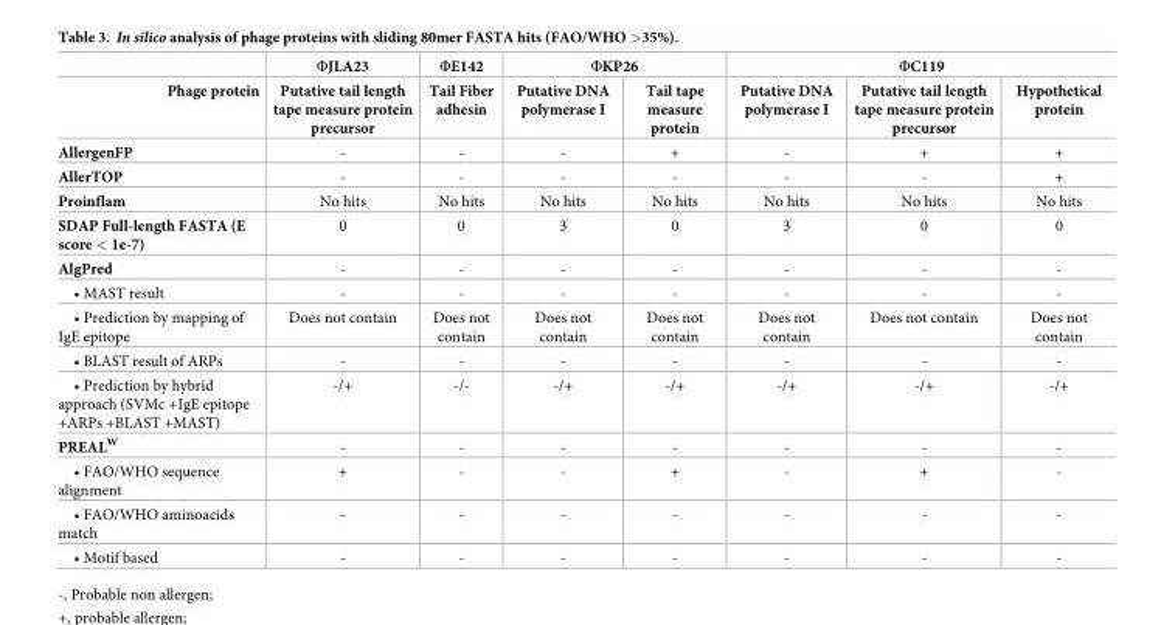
<table><thead><tr><td rowspan="2">Phage protein</td><td rowspan="2">ΦJLA23 Putative tail length tape measure protein precursor</td><td rowspan="2">ΦE142 Tail Fiber adhesin</td><td colspan="2">ΦKP26</td><td colspan="3">ΦC119</td></tr><tr><td>Putative DNA polymerase I</td><td>Tail tape measure protein</td><td>Putative DNA polymerase I</td><td>Putative tail length tape measure protein precursor</td><td>Hypothetical protein</td></tr></thead><tbody><tr><td>AllergenFP</td><td>-</td><td>-</td><td>-</td><td>+</td><td>-</td><td>+</td><td>+</td></tr><tr><td>AllerTOP</td><td>-</td><td>-</td><td>-</td><td>-</td><td>-</td><td>-</td><td>+</td></tr><tr><td>Proinflam</td><td>No hits</td><td>No hits</td><td>No hits</td><td>No hits</td><td>No hits</td><td>No hits</td><td>No hits</td></tr><tr><td>SDAP Full-length FASTA (E score &lt; 1e-7)</td><td>0</td><td>0</td><td>3</td><td>0</td><td>3</td><td>0</td><td>0</td></tr><tr><td>AlgPred</td><td>-</td><td>-</td><td>-</td><td>-</td><td>-</td><td>-</td><td>-</td></tr><tr><td>• MAST result</td><td>-</td><td>-</td><td>-</td><td>-</td><td>-</td><td>-</td><td>-</td></tr><tr><td>• Prediction by mapping of IgE epitope</td><td>Does not contain</td><td>Does not contain</td><td>Does not contain</td><td>Does not contain</td><td>Does not contain</td><td>Does not contain</td><td>Does not contain</td></tr><tr><td>• BLAST result of ARPs</td><td>-</td><td>-</td><td>-</td><td>-</td><td>-</td><td>-</td><td>-</td></tr><tr><td>• Prediction by hybrid approach (SVMc +IgE epitope +ARPs +BLAST +MAST)</td><td>-/+</td><td>-/-</td><td>-/+</td><td>-/+</td><td>-/+</td><td>-/+</td><td>-/+</td></tr><tr><td>PREAL<sup>W</sup></td><td>-</td><td>-</td><td>-</td><td>-</td><td>-</td><td>-</td><td>-</td></tr><tr><td>• FAO/WHO sequence alignment</td><td>+</td><td>-</td><td>-</td><td>+</td><td>-</td><td>+</td><td>-</td></tr><tr><td>• FAO/WHO aminoacids match</td><td>-</td><td>-</td><td>-</td><td>-</td><td>-</td><td>-</td><td>-</td></tr><tr><td>• Motif based</td><td>-</td><td>-</td><td>-</td><td>-</td><td>-</td><td>-</td><td>-</td></tr></tbody></table>